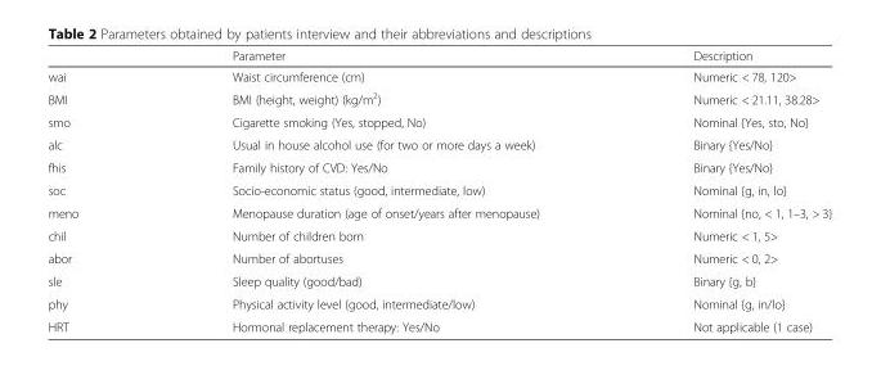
<table><thead><tr><td></td><td>Parameter</td><td>Description</td></tr></thead><tbody><tr><td>wai</td><td>Waist circumference (cm)</td><td>Numeric &lt; 78, 120&gt;</td></tr><tr><td>BMI</td><td>BMI (height, weight) (kg/m<sup>2</sup>)</td><td>Numeric &lt; 21.11, 38.28&gt;</td></tr><tr><td>smo</td><td>Cigarette smoking (Yes, stopped, No)</td><td>Nominal {Yes, sto, No}</td></tr><tr><td>alc</td><td>Usual in house alcohol use (for two or more days a week)</td><td>Binary {Yes/No}</td></tr><tr><td>fhis</td><td>Family history of CVD: Yes/No</td><td>Binary {Yes/No}</td></tr><tr><td>soc</td><td>Socio-economic status (good, intermediate, low)</td><td>Nominal {g, in, lo}</td></tr><tr><td>meno</td><td>Menopause duration (age of onset/years after menopause)</td><td>Nominal {no, &lt; 1, 1–3, &gt; 3}</td></tr><tr><td>chil</td><td>Number of children born</td><td>Numeric &lt; 1, 5&gt;</td></tr><tr><td>abor</td><td>Number of abortuses</td><td>Numeric &lt; 0, 2&gt;</td></tr><tr><td>sle</td><td>Sleep quality (good/bad)</td><td>Binary {g, b}</td></tr><tr><td>phy</td><td>Physical activity level (good, intermediate/low)</td><td>Nominal {g, in/lo}</td></tr><tr><td>HRT</td><td>Hormonal replacement therapy: Yes/No</td><td>Not applicable (1 case)</td></tr></tbody></table>